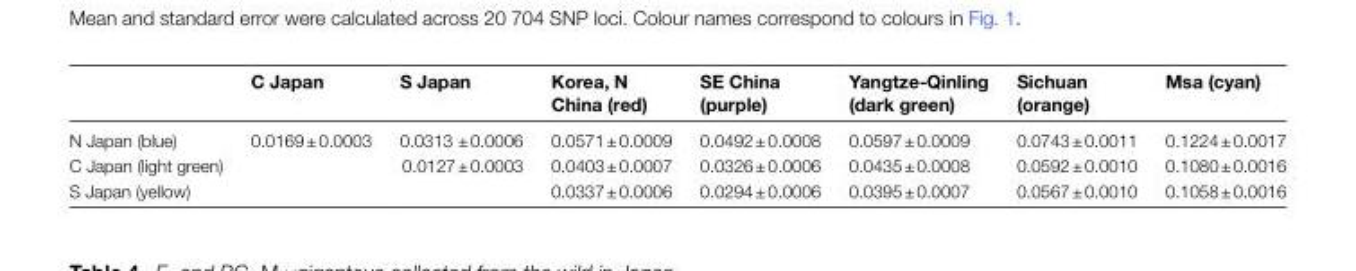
<table><thead><tr><td></td><td>C Japan</td><td>S Japan</td><td>Korea, N China (red)</td><td>SE China (purple)</td><td>Yangtze-Qinling (dark green)</td><td>Sichuan (orange)</td><td>Msa (cyan)</td></tr></thead><tbody><tr><td>N Japan (blue)</td><td>0.0169 ± 0.0003</td><td>0.0313 ± 0.0006</td><td>0.0571 ± 0.0009</td><td>0.0492 ± 0.0008</td><td>0.0597 ± 0.0009</td><td>0.0743 ± 0.0011</td><td>0.1224 ± 0.0017</td></tr><tr><td>C Japan (light green)</td><td></td><td>0.0127 ± 0.0003</td><td>0.0403 ± 0.0007</td><td>0.0326 ± 0.0006</td><td>0.0435 ± 0.0008</td><td>0.0592 ± 0.0010</td><td>0.1080 ± 0.0016</td></tr><tr><td>S Japan (yellow)</td><td></td><td></td><td>0.0337 ± 0.0006</td><td>0.0294 ± 0.0006</td><td>0.0395 ± 0.0007</td><td>0.0567 ± 0.0010</td><td>0.1058 ± 0.0016</td></tr></tbody></table>